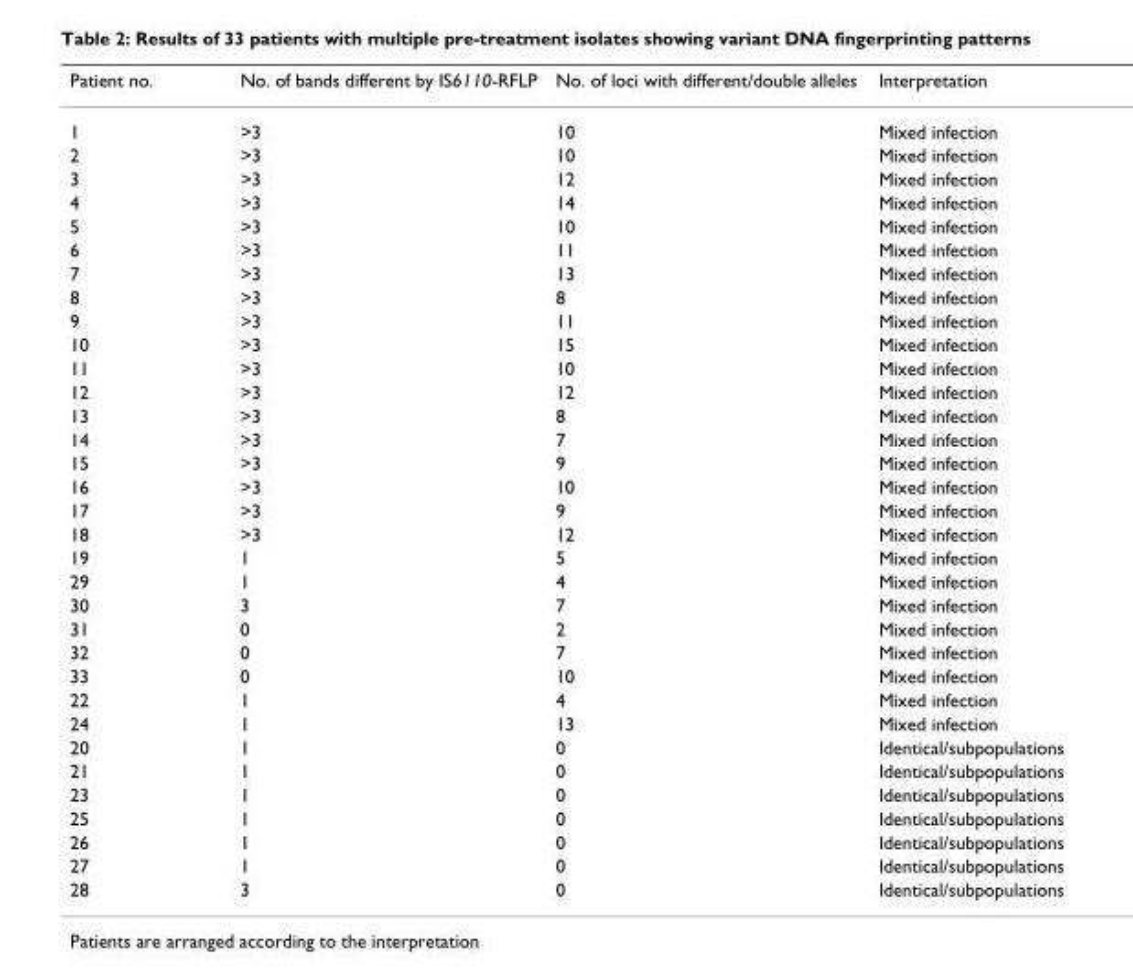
<table><thead><tr><td>Patient no.</td><td>No. of bands different by IS6110-RFLP</td><td>No. of loci with different/double alleles</td><td>Interpretation</td></tr></thead><tbody><tr><td>1</td><td>&gt;3</td><td>10</td><td>Mixed infection</td></tr><tr><td>2</td><td>&gt;3</td><td>10</td><td>Mixed infection</td></tr><tr><td>3</td><td>&gt;3</td><td>12</td><td>Mixed infection</td></tr><tr><td>4</td><td>&gt;3</td><td>14</td><td>Mixed infection</td></tr><tr><td>5</td><td>&gt;3</td><td>10</td><td>Mixed infection</td></tr><tr><td>6</td><td>&gt;3</td><td>11</td><td>Mixed infection</td></tr><tr><td>7</td><td>&gt;3</td><td>13</td><td>Mixed infection</td></tr><tr><td>8</td><td>&gt;3</td><td>8</td><td>Mixed infection</td></tr><tr><td>9</td><td>&gt;3</td><td>11</td><td>Mixed infection</td></tr><tr><td>10</td><td>&gt;3</td><td>15</td><td>Mixed infection</td></tr><tr><td>11</td><td>&gt;3</td><td>10</td><td>Mixed infection</td></tr><tr><td>12</td><td>&gt;3</td><td>12</td><td>Mixed infection</td></tr><tr><td>13</td><td>&gt;3</td><td>8</td><td>Mixed infection</td></tr><tr><td>14</td><td>&gt;3</td><td>7</td><td>Mixed infection</td></tr><tr><td>15</td><td>&gt;3</td><td>9</td><td>Mixed infection</td></tr><tr><td>16</td><td>&gt;3</td><td>10</td><td>Mixed infection</td></tr><tr><td>17</td><td>&gt;3</td><td>9</td><td>Mixed infection</td></tr><tr><td>18</td><td>&gt;3</td><td>12</td><td>Mixed infection</td></tr><tr><td>19</td><td>1</td><td>5</td><td>Mixed infection</td></tr><tr><td>29</td><td>1</td><td>4</td><td>Mixed infection</td></tr><tr><td>30</td><td>3</td><td>7</td><td>Mixed infection</td></tr><tr><td>31</td><td>0</td><td>2</td><td>Mixed infection</td></tr><tr><td>32</td><td>0</td><td>7</td><td>Mixed infection</td></tr><tr><td>33</td><td>0</td><td>10</td><td>Mixed infection</td></tr><tr><td>22</td><td>1</td><td>4</td><td>Mixed infection</td></tr><tr><td>24</td><td>1</td><td>13</td><td>Mixed infection</td></tr><tr><td>20</td><td>1</td><td>0</td><td>Identical/subpopulations</td></tr><tr><td>21</td><td>1</td><td>0</td><td>Identical/subpopulations</td></tr><tr><td>23</td><td>1</td><td>0</td><td>Identical/subpopulations</td></tr><tr><td>25</td><td>1</td><td>0</td><td>Identical/subpopulations</td></tr><tr><td>26</td><td>1</td><td>0</td><td>Identical/subpopulations</td></tr><tr><td>27</td><td>1</td><td>0</td><td>Identical/subpopulations</td></tr><tr><td>28</td><td>3</td><td>0</td><td>Identical/subpopulations</td></tr></tbody></table>